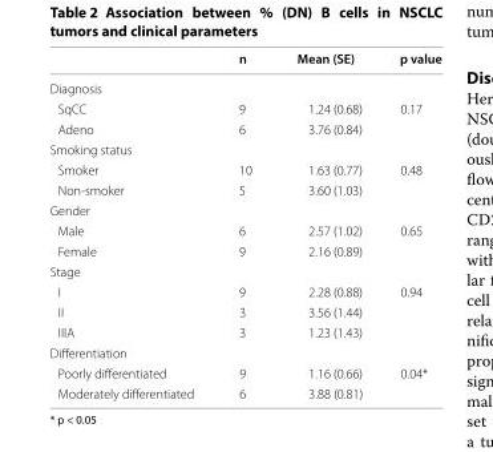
<table><thead><tr><td></td><td>n</td><td>Mean (SE)</td><td>p value</td></tr></thead><tbody><tr><td colspan="4">Diagnosis</td></tr><tr><td>SqCC</td><td>9</td><td>1.24 (0.68)</td><td>0.17</td></tr><tr><td>Adeno</td><td>6</td><td>3.76 (0.84)</td><td></td></tr><tr><td colspan="4">Smoking status</td></tr><tr><td>Smoker</td><td>10</td><td>1.63 (0.77)</td><td>0.48</td></tr><tr><td>Non-smoker</td><td>5</td><td>3.60 (1.03)</td><td></td></tr><tr><td colspan="4">Gender</td></tr><tr><td>Male</td><td>6</td><td>2.57 (1.02)</td><td>0.65</td></tr><tr><td>Female</td><td>9</td><td>2.16 (0.89)</td><td></td></tr><tr><td colspan="4">Stage</td></tr><tr><td>I</td><td>9</td><td>2.28 (0.88)</td><td>0.94</td></tr><tr><td>II</td><td>3</td><td>3.56 (1.44)</td><td></td></tr><tr><td>IIIA</td><td>3</td><td>1.23 (1.43)</td><td></td></tr><tr><td colspan="4">Differentiation</td></tr><tr><td>Poorly differentiated</td><td>9</td><td>1.16 (0.66)</td><td>0.04*</td></tr><tr><td>Moderately differentiated</td><td>6</td><td>3.88 (0.81)</td><td></td></tr></tbody></table>